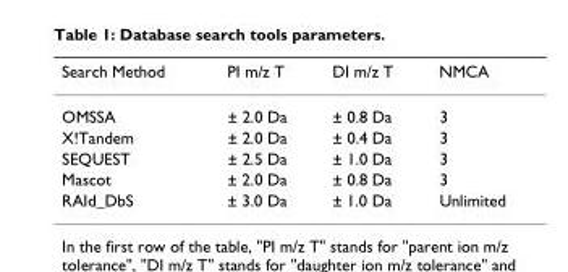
<table><thead><tr><td>Search Method</td><td>PI m/z T</td><td>DI m/z T</td><td>NMCA</td></tr></thead><tbody><tr><td>OMSSA</td><td>± 2.0 Da</td><td>± 0.8 Da</td><td>3</td></tr><tr><td>X!Tandem</td><td>± 2.0 Da</td><td>± 0.4 Da</td><td>3</td></tr><tr><td>SEQUEST</td><td>± 2.5 Da</td><td>± 1.0 Da</td><td>3</td></tr><tr><td>Mascot</td><td>± 2.0 Da</td><td>± 0.8 Da</td><td>3</td></tr><tr><td>RAId_DbS</td><td>± 3.0 Da</td><td>± 1.0 Da</td><td>Unlimited</td></tr></tbody></table>